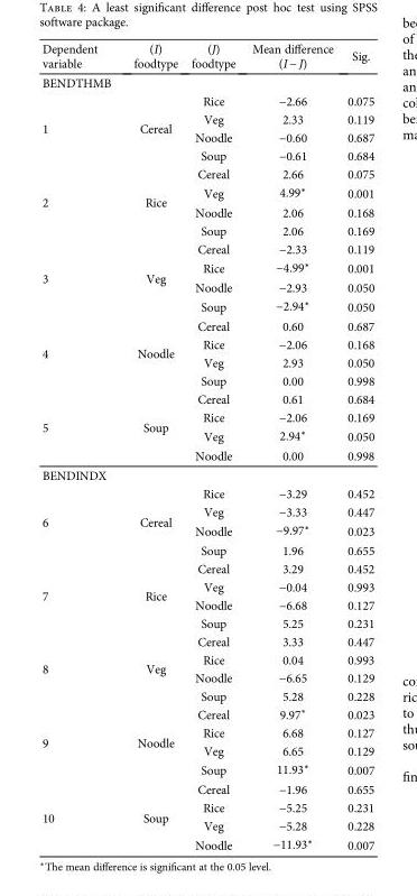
<table><thead><tr><td>Dependent variable</td><td>(I) foodtype</td><td>(J) foodtype</td><td>Mean difference (I − J)</td><td>Sig.</td></tr></thead><tbody><tr><td colspan="5">BENDTHMB</td></tr><tr><td rowspan="4">1</td><td rowspan="4">Cereal</td><td>Rice</td><td>−2.66</td><td>0.075</td></tr><tr><td>Veg</td><td>2.33</td><td>0.119</td></tr><tr><td>Noodle</td><td>−0.60</td><td>0.687</td></tr><tr><td>Soup</td><td>−0.61</td><td>0.684</td></tr><tr><td rowspan="4">2</td><td rowspan="4">Rice</td><td>Cereal</td><td>2.66</td><td>0.075</td></tr><tr><td>Veg</td><td>4.99∗</td><td>0.001</td></tr><tr><td>Noodle</td><td>2.06</td><td>0.168</td></tr><tr><td>Soup</td><td>2.06</td><td>0.169</td></tr><tr><td rowspan="4">3</td><td rowspan="4">Veg</td><td>Cereal</td><td>−2.33</td><td>0.119</td></tr><tr><td>Rice</td><td>−4.99∗</td><td>0.001</td></tr><tr><td>Noodle</td><td>−2.93</td><td>0.050</td></tr><tr><td>Soup</td><td>−2.94∗</td><td>0.050</td></tr><tr><td rowspan="4">4</td><td rowspan="4">Noodle</td><td>Cereal</td><td>0.60</td><td>0.687</td></tr><tr><td>Rice</td><td>−2.06</td><td>0.168</td></tr><tr><td>Veg</td><td>2.93</td><td>0.050</td></tr><tr><td>Soup</td><td>0.00</td><td>0.998</td></tr><tr><td rowspan="4">5</td><td rowspan="4">Soup</td><td>Cereal</td><td>0.61</td><td>0.684</td></tr><tr><td>Rice</td><td>−2.06</td><td>0.169</td></tr><tr><td>Veg</td><td>2.94∗</td><td>0.050</td></tr><tr><td>Noodle</td><td>0.00</td><td>0.998</td></tr><tr><td colspan="5">BENDINDX</td></tr><tr><td rowspan="4">6</td><td rowspan="4">Cereal</td><td>Rice</td><td>−3.29</td><td>0.452</td></tr><tr><td>Veg</td><td>−3.33</td><td>0.447</td></tr><tr><td>Noodle</td><td>−9.97∗</td><td>0.023</td></tr><tr><td>Soup</td><td>1.96</td><td>0.655</td></tr><tr><td rowspan="4">7</td><td rowspan="4">Rice</td><td>Cereal</td><td>3.29</td><td>0.452</td></tr><tr><td>Veg</td><td>−0.04</td><td>0.993</td></tr><tr><td>Noodle</td><td>−6.68</td><td>0.127</td></tr><tr><td>Soup</td><td>5.25</td><td>0.231</td></tr><tr><td rowspan="4">8</td><td rowspan="4">Veg</td><td>Cereal</td><td>3.33</td><td>0.447</td></tr><tr><td>Rice</td><td>0.04</td><td>0.993</td></tr><tr><td>Noodle</td><td>−6.65</td><td>0.129</td></tr><tr><td>Soup</td><td>5.28</td><td>0.228</td></tr><tr><td rowspan="4">9</td><td rowspan="4">Noodle</td><td>Cereal</td><td>9.97∗</td><td>0.023</td></tr><tr><td>Rice</td><td>6.68</td><td>0.127</td></tr><tr><td>Veg</td><td>6.65</td><td>0.129</td></tr><tr><td>Soup</td><td>11.93∗</td><td>0.007</td></tr><tr><td rowspan="4">10</td><td rowspan="4">Soup</td><td>Cereal</td><td>−1.96</td><td>0.655</td></tr><tr><td>Rice</td><td>−5.25</td><td>0.231</td></tr><tr><td>Veg</td><td>−5.28</td><td>0.228</td></tr><tr><td>Noodle</td><td>−11.93∗</td><td>0.007</td></tr></tbody></table>